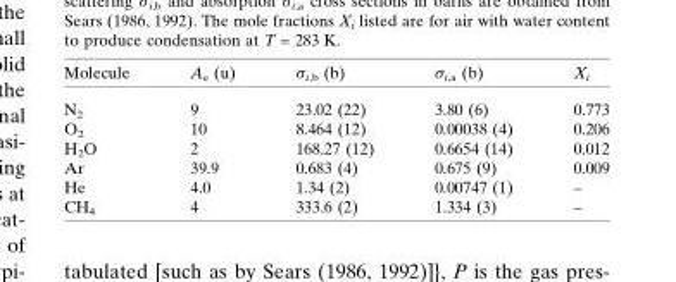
<table><thead><tr><td>Molecule</td><td>A<sub>e</sub> (u)</td><td>�i,b (b)</td><td>�i,a (b)</td><td>X<sub>i</sub></td></tr></thead><tbody><tr><td>N<sub>2</sub></td><td>9</td><td>23.02 (22)</td><td>3.80 (6)</td><td>0.773</td></tr><tr><td>O<sub>2</sub></td><td>10</td><td>8.464 (12)</td><td>0.00038 (4)</td><td>0.206</td></tr><tr><td>H<sub>2</sub>O</td><td>2</td><td>168.27 (12)</td><td>0.6654 (14)</td><td>0.012</td></tr><tr><td>Ar</td><td>39.9</td><td>0.683 (4)</td><td>0.675 (9)</td><td>0.009</td></tr><tr><td>He</td><td>4.0</td><td>1.34 (2)</td><td>0.00747 (1)</td><td>–</td></tr><tr><td>CH<sub>4</sub></td><td>4</td><td>333.6 (2)</td><td>1.334 (3)</td><td>–</td></tr></tbody></table>